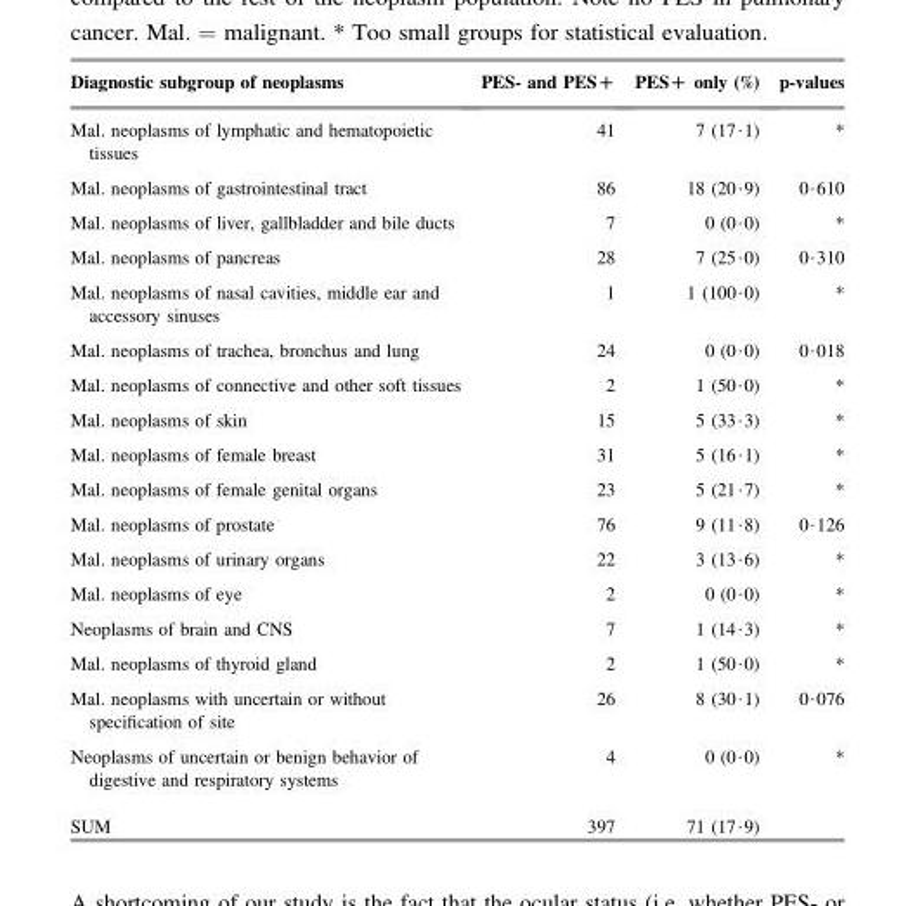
<table><thead><tr><td>Diagnostic subgroup of neoplasms</td><td>PES- and PES+</td><td>PES+ only (%)</td><td>p-values</td></tr></thead><tbody><tr><td>Mal. neoplasms of lymphatic and hematopoietic tissues</td><td>41</td><td>7 (17·1)</td><td>*</td></tr><tr><td>Mal. neoplasms of gastrointestinal tract</td><td>86</td><td>18 (20·9)</td><td>0·610</td></tr><tr><td>Mal. neoplasms of liver, gallbladder and bile ducts</td><td>7</td><td>0 (0·0)</td><td>*</td></tr><tr><td>Mal. neoplasms of pancreas</td><td>28</td><td>7 (25·0)</td><td>0·310</td></tr><tr><td>Mal. neoplasms of nasal cavities, middle ear and accessory sinuses</td><td>1</td><td>1 (100·0)</td><td>*</td></tr><tr><td>Mal. neoplasms of trachea, bronchus and lung</td><td>24</td><td>0 (0·0)</td><td>0·018</td></tr><tr><td>Mal. neoplasms of connective and other soft tissues</td><td>2</td><td>1 (50·0)</td><td>*</td></tr><tr><td>Mal. neoplasms of skin</td><td>15</td><td>5 (33·3)</td><td>*</td></tr><tr><td>Mal. neoplasms of female breast</td><td>31</td><td>5 (16·1)</td><td>*</td></tr><tr><td>Mal. neoplasms of female genital organs</td><td>23</td><td>5 (21·7)</td><td>*</td></tr><tr><td>Mal. neoplasms of prostate</td><td>76</td><td>9 (11·8)</td><td>0·126</td></tr><tr><td>Mal. neoplasms of urinary organs</td><td>22</td><td>3 (13·6)</td><td>*</td></tr><tr><td>Mal. neoplasms of eye</td><td>2</td><td>0 (0·0)</td><td>*</td></tr><tr><td>Neoplasms of brain and CNS</td><td>7</td><td>1 (14·3)</td><td>*</td></tr><tr><td>Mal. neoplasms of thyroid gland</td><td>2</td><td>1 (50·0)</td><td>*</td></tr><tr><td>Mal. neoplasms with uncertain or without specification of site</td><td>26</td><td>8 (30·1)</td><td>0·076</td></tr><tr><td>Neoplasms of uncertain or benign behavior of digestive and respiratory systems</td><td>4</td><td>0 (0·0)</td><td>*</td></tr><tr><td>SUM</td><td>397</td><td>71 (17·9)</td><td></td></tr></tbody></table>